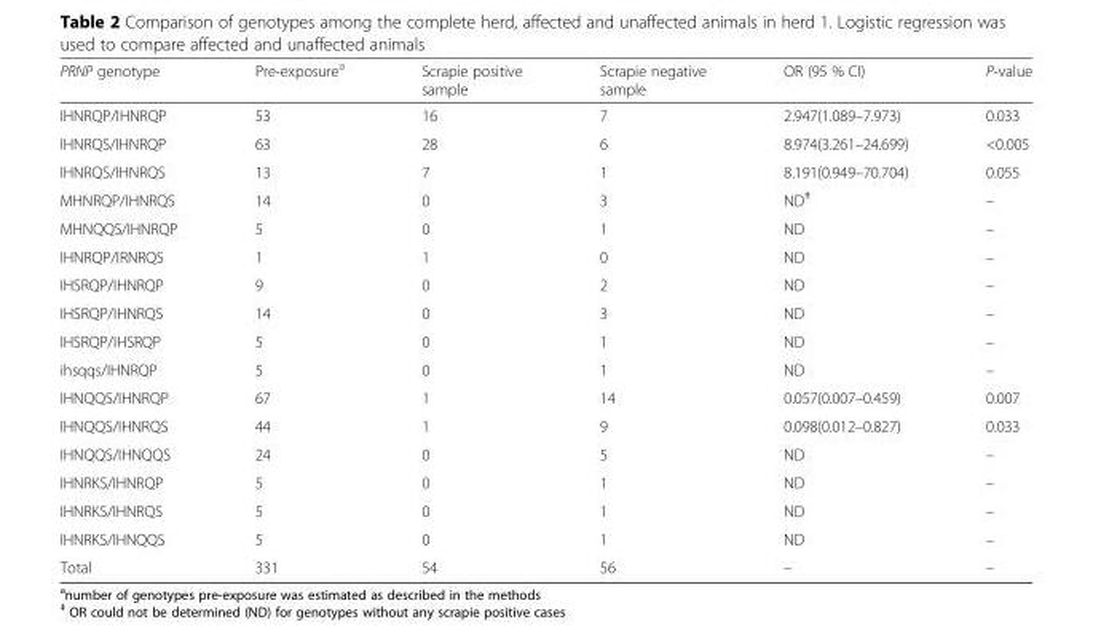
<table><thead><tr><td>PRNP genotype</td><td>Pre-exposure<sup>a</sup></td><td>Scrapie positive sample</td><td>Scrapie negative sample</td><td>OR (95 % CI)</td><td>P-value</td></tr></thead><tbody><tr><td>IHNRQP/IHNRQP</td><td>53</td><td>16</td><td>7</td><td>2.947(1.089–7.973)</td><td>0.033</td></tr><tr><td>IHNRQS/IHNRQP</td><td>63</td><td>28</td><td>6</td><td>8.974(3.261–24.699)</td><td>&lt;0.005</td></tr><tr><td>IHNRQS/IHNRQS</td><td>13</td><td>7</td><td>1</td><td>8.191(0.949–70.704)</td><td>0.055</td></tr><tr><td>MHNRQP/IHNRQS</td><td>14</td><td>0</td><td>3</td><td>ND<sup>ǂ</sup></td><td>–</td></tr><tr><td>MHNQQS/IHNRQP</td><td>5</td><td>0</td><td>1</td><td>ND</td><td>–</td></tr><tr><td>IHNRQP/IRNRQS</td><td>1</td><td>1</td><td>0</td><td>ND</td><td>–</td></tr><tr><td>IHSRQP/IHNRQP</td><td>9</td><td>0</td><td>2</td><td>ND</td><td>–</td></tr><tr><td>IHSRQP/IHNRQS</td><td>14</td><td>0</td><td>3</td><td>ND</td><td>–</td></tr><tr><td>IHSRQP/IHSRQP</td><td>5</td><td>0</td><td>1</td><td>ND</td><td>–</td></tr><tr><td>ihsqqs/IHNRQP</td><td>5</td><td>0</td><td>1</td><td>ND</td><td>–</td></tr><tr><td>IHNQQS/IHNRQP</td><td>67</td><td>1</td><td>14</td><td>0.057(0.007–0.459)</td><td>0.007</td></tr><tr><td>IHNQQS/IHNRQS</td><td>44</td><td>1</td><td>9</td><td>0.098(0.012–0.827)</td><td>0.033</td></tr><tr><td>IHNQQS/IHNQQS</td><td>24</td><td>0</td><td>5</td><td>ND</td><td>–</td></tr><tr><td>IHNRKS/IHNRQP</td><td>5</td><td>0</td><td>1</td><td>ND</td><td>–</td></tr><tr><td>IHNRKS/IHNRQS</td><td>5</td><td>0</td><td>1</td><td>ND</td><td>–</td></tr><tr><td>IHNRKS/IHNQQS</td><td>5</td><td>0</td><td>1</td><td>ND</td><td>–</td></tr><tr><td>Total</td><td>331</td><td>54</td><td>56</td><td>–</td><td>–</td></tr></tbody></table>